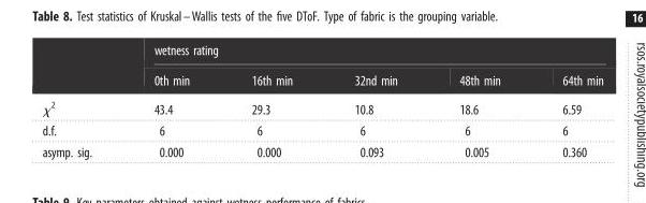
<table><thead><tr><td rowspan="2"></td><td colspan="5">wetness rating</td></tr><tr><td>0th min</td><td>16th min</td><td>32nd min</td><td>48th min</td><td>64th min</td></tr></thead><tbody><tr><td>χ<sup>2</sup></td><td>43.4</td><td>29.3</td><td>10.8</td><td>18.6</td><td>6.59</td></tr><tr><td>d.f.</td><td>6</td><td>6</td><td>6</td><td>6</td><td>6</td></tr><tr><td>asymp. sig.</td><td>0.000</td><td>0.000</td><td>0.093</td><td>0.005</td><td>0.360</td></tr></tbody></table>